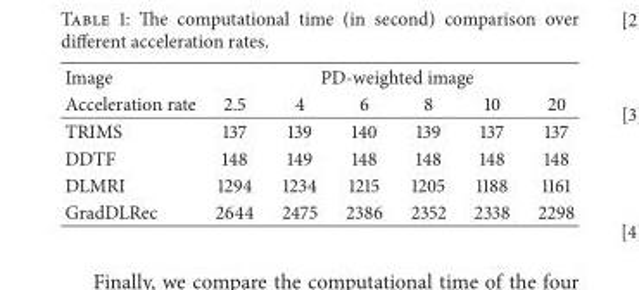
<table><thead><tr><td rowspan="2">Image Acceleration rate</td><td colspan="6">PD-weighted image</td></tr><tr><td>2.5</td><td>4</td><td>6</td><td>8</td><td>10</td><td>20</td></tr></thead><tbody><tr><td>TRIMS</td><td>137</td><td>139</td><td>140</td><td>139</td><td>137</td><td>137</td></tr><tr><td>DDTF</td><td>148</td><td>149</td><td>148</td><td>148</td><td>148</td><td>148</td></tr><tr><td>DLMRI</td><td>1294</td><td>1234</td><td>1215</td><td>1205</td><td>1188</td><td>1161</td></tr><tr><td>GradDLRec</td><td>2644</td><td>2475</td><td>2386</td><td>2352</td><td>2338</td><td>2298</td></tr></tbody></table>